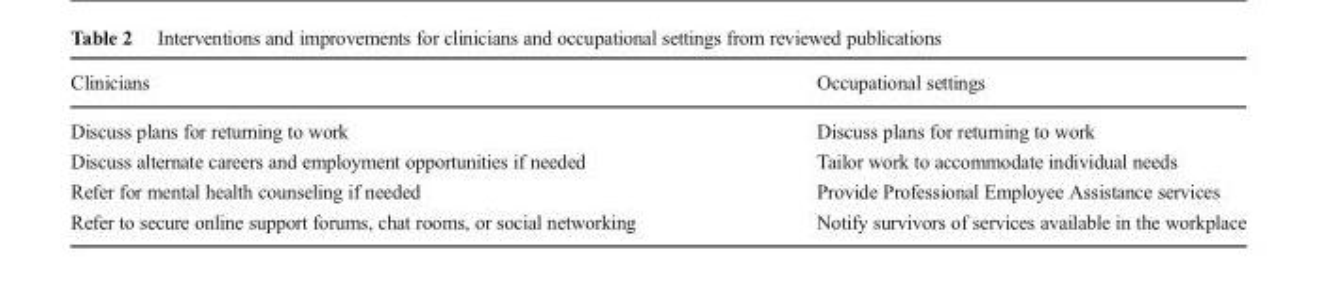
<table><thead><tr><td>Clinicians</td><td>Occupational settings</td></tr></thead><tbody><tr><td>Discuss plans for returning to work</td><td>Discuss plans for returning to work</td></tr><tr><td>Discuss alternate careers and employment opportunities if needed</td><td>Tailor work to accommodate individual needs</td></tr><tr><td>Refer for mental health counseling if needed</td><td>Provide Professional Employee Assistance services</td></tr><tr><td>Refer to secure online support forums, chat rooms, or social networking</td><td>Notify survivors of services available in the workplace</td></tr></tbody></table>